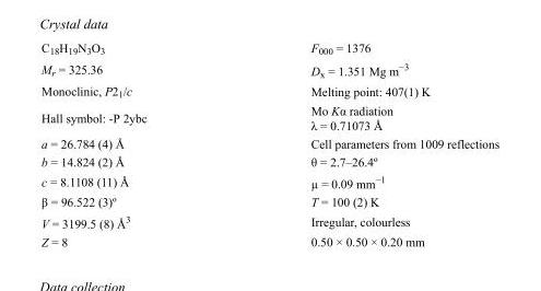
<table><tbody><tr><td>C<sub>18</sub>H<sub>19</sub>N<sub>3</sub>O<sub>3</sub></td><td>F000 = 1376</td></tr><tr><td>M<sub>r</sub> = 325.36</td><td>D<sub>x</sub> = 1.351 Mg m<sup>−3</sup></td></tr><tr><td>Monoclinic, P2<sub>1</sub>/c</td><td>Melting point: 407(1) K</td></tr><tr><td>Hall symbol: -P 2ybc</td><td>Mo Kα radiation λ = 0.71073 Å</td></tr><tr><td>a = 26.784 (4) Å</td><td>Cell parameters from 1009 reflections</td></tr><tr><td>b = 14.824 (2) Å</td><td>θ = 2.7–26.4º</td></tr><tr><td>c = 8.1108 (11) Å</td><td>µ = 0.09 mm<sup>−1</sup></td></tr><tr><td>β = 96.522 (3)º</td><td>T = 100 (2) K</td></tr><tr><td>V = 3199.5 (8) Å<sup>3</sup></td><td>Irregular, colourless</td></tr><tr><td>Z = 8</td><td>0.50 × 0.50 × 0.20 mm</td></tr></tbody></table>